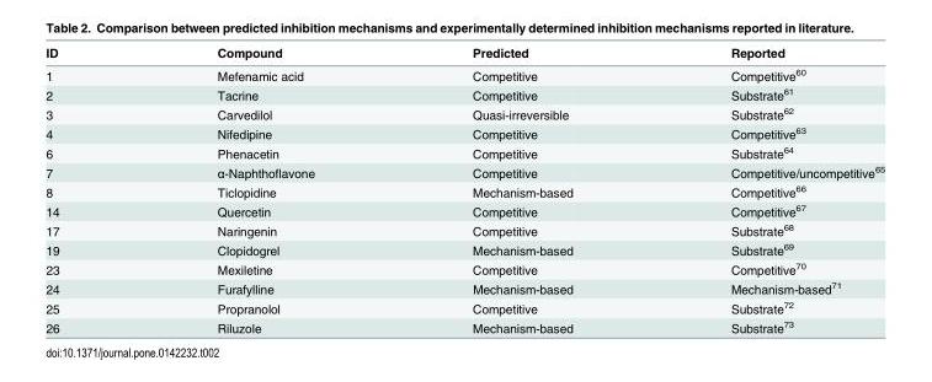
<table><thead><tr><td>ID</td><td>Compound</td><td>Predicted</td><td>Reported</td></tr></thead><tbody><tr><td>1</td><td>Mefenamic acid</td><td>Competitive</td><td>Competitive<sup>60</sup></td></tr><tr><td>2</td><td>Tacrine</td><td>Competitive</td><td>Substrate<sup>61</sup></td></tr><tr><td>3</td><td>Carvedilol</td><td>Quasi-irreversible</td><td>Substrate<sup>62</sup></td></tr><tr><td>4</td><td>Nifedipine</td><td>Competitive</td><td>Competitive<sup>63</sup></td></tr><tr><td>6</td><td>Phenacetin</td><td>Competitive</td><td>Substrate<sup>64</sup></td></tr><tr><td>7</td><td>α-Naphthoflavone</td><td>Competitive</td><td>Competitive/uncompetitive<sup>65</sup></td></tr><tr><td>8</td><td>Ticlopidine</td><td>Mechanism-based</td><td>Competitive<sup>66</sup></td></tr><tr><td>14</td><td>Quercetin</td><td>Competitive</td><td>Competitive<sup>67</sup></td></tr><tr><td>17</td><td>Naringenin</td><td>Competitive</td><td>Substrate<sup>68</sup></td></tr><tr><td>19</td><td>Clopidogrel</td><td>Mechanism-based</td><td>Substrate<sup>69</sup></td></tr><tr><td>23</td><td>Mexiletine</td><td>Competitive</td><td>Competitive<sup>70</sup></td></tr><tr><td>24</td><td>Furafylline</td><td>Mechanism-based</td><td>Mechanism-based<sup>71</sup></td></tr><tr><td>25</td><td>Propranolol</td><td>Competitive</td><td>Substrate<sup>72</sup></td></tr><tr><td>26</td><td>Riluzole</td><td>Mechanism-based</td><td>Substrate<sup>73</sup></td></tr></tbody></table>